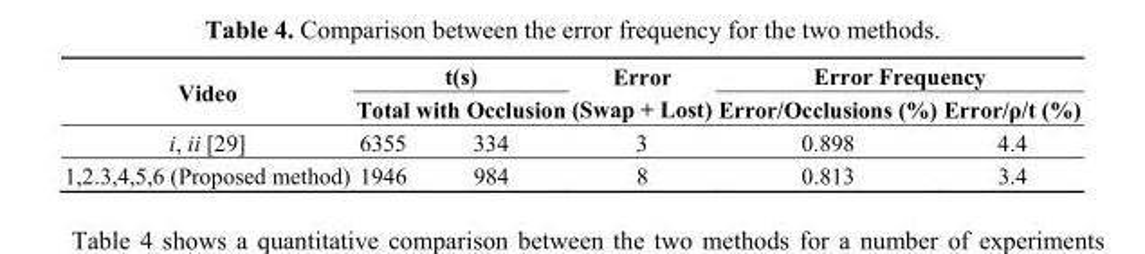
<table><thead><tr><td rowspan="2">Video</td><td colspan="2">t(s)</td><td rowspan="2">Error (Swap + Lost)</td><td colspan="2">Error Frequency</td></tr><tr><td>Total</td><td>with Occlusion</td><td>Error/Occlusions (%)</td><td>Error/ρ/t (%)</td></tr></thead><tbody><tr><td>i, ii [29]</td><td>6355</td><td>334</td><td>3</td><td>0.898</td><td>4.4</td></tr><tr><td>1,2.3,4,5,6 (Proposed method)</td><td>1946</td><td>984</td><td>8</td><td>0.813</td><td>3.4</td></tr></tbody></table>